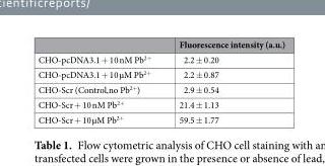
<table><thead><tr><td></td><td>Fluorescence intensity (a.u.)</td></tr></thead><tbody><tr><td>CHO-pcDNA3.1 + 10 nM Pb<sup>2+</sup></td><td>2.2 ± 0.20</td></tr><tr><td>CHO-pcDNA3.1 + 10 µM Pb<sup>2+</sup></td><td>2.2 ± 0.87</td></tr><tr><td>CHO-Scr (Control,no Pb<sup>2+</sup>)</td><td>2.9 ± 0.54</td></tr><tr><td>CHO-Scr + 10 nM Pb<sup>2+</sup></td><td>21.4 ± 1.13</td></tr><tr><td>CHO-Scr + 10 µM Pb<sup>2+</sup></td><td>59.5 ± 1.77</td></tr></tbody></table>